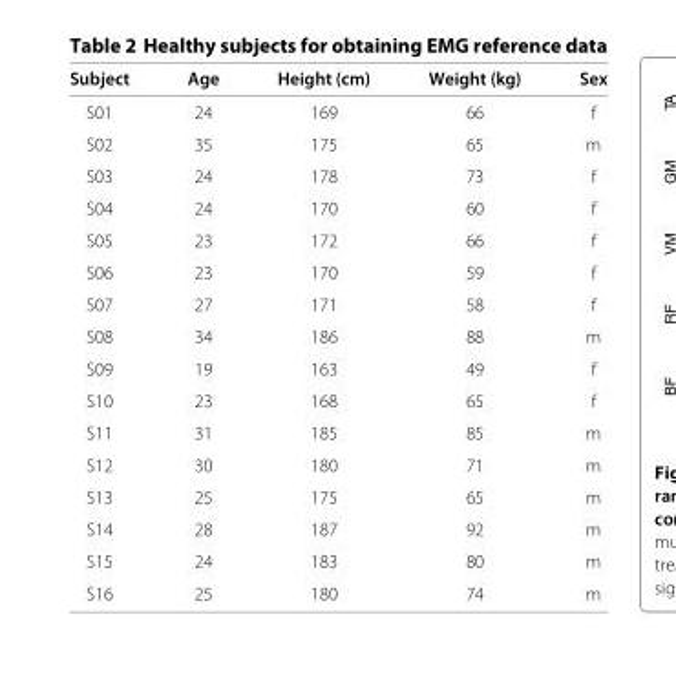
<table><thead><tr><td>Subject</td><td>Age</td><td>Height (cm)</td><td>Weight (kg)</td><td>Sex</td></tr></thead><tbody><tr><td>S01</td><td>24</td><td>169</td><td>66</td><td>f</td></tr><tr><td>S02</td><td>35</td><td>175</td><td>65</td><td>m</td></tr><tr><td>S03</td><td>24</td><td>178</td><td>73</td><td>f</td></tr><tr><td>S04</td><td>24</td><td>170</td><td>60</td><td>f</td></tr><tr><td>S05</td><td>23</td><td>172</td><td>66</td><td>f</td></tr><tr><td>S06</td><td>23</td><td>170</td><td>59</td><td>f</td></tr><tr><td>S07</td><td>27</td><td>171</td><td>58</td><td>f</td></tr><tr><td>S08</td><td>34</td><td>186</td><td>88</td><td>m</td></tr><tr><td>S09</td><td>19</td><td>163</td><td>49</td><td>f</td></tr><tr><td>S10</td><td>23</td><td>168</td><td>65</td><td>f</td></tr><tr><td>S11</td><td>31</td><td>185</td><td>85</td><td>m</td></tr><tr><td>S12</td><td>30</td><td>180</td><td>71</td><td>m</td></tr><tr><td>S13</td><td>25</td><td>175</td><td>65</td><td>m</td></tr><tr><td>S14</td><td>28</td><td>187</td><td>92</td><td>m</td></tr><tr><td>S15</td><td>24</td><td>183</td><td>80</td><td>m</td></tr><tr><td>S16</td><td>25</td><td>180</td><td>74</td><td>m</td></tr></tbody></table>